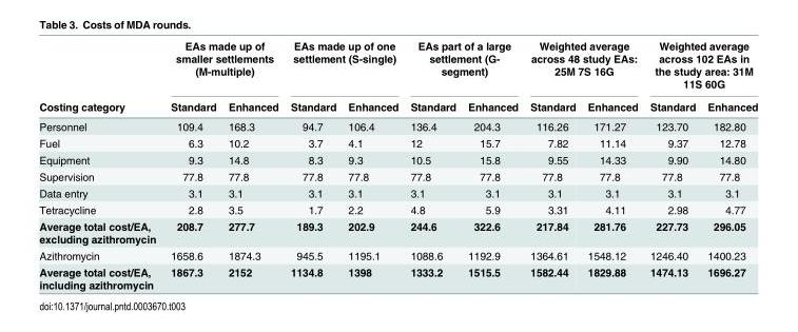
<table><thead><tr><td rowspan="2">Costing category</td><td colspan="2">EAs made up of smaller settlements (M-multiple)</td><td colspan="2">EAs made up of one settlement (S-single)</td><td colspan="2">EAs part of a large settlement (G- segment)</td><td colspan="2">Weighted average across 48 study EAs: 25M 7S 16G</td><td colspan="2">Weighted average across 102 EAs in the study area: 31M 11S 60G</td></tr><tr><td>Standard</td><td>Enhanced</td><td>Standard</td><td>Enhanced</td><td>Standard</td><td>Enhanced</td><td>Standard</td><td>Enhanced</td><td>Standard</td><td>Enhanced</td></tr></thead><tbody><tr><td>Personnel</td><td>109.4</td><td>168.3</td><td>94.7</td><td>106.4</td><td>136.4</td><td>204.3</td><td>116.26</td><td>171.27</td><td>123.70</td><td>182.80</td></tr><tr><td>Fuel</td><td>6.3</td><td>10.2</td><td>3.7</td><td>4.1</td><td>12</td><td>15.7</td><td>7.82</td><td>11.14</td><td>9.37</td><td>12.78</td></tr><tr><td>Equipment</td><td>9.3</td><td>14.8</td><td>8.3</td><td>9.3</td><td>10.5</td><td>15.8</td><td>9.55</td><td>14.33</td><td>9.90</td><td>14.80</td></tr><tr><td>Supervision</td><td>77.8</td><td>77.8</td><td>77.8</td><td>77.8</td><td>77.8</td><td>77.8</td><td>77.8</td><td>77.8</td><td>77.8</td><td>77.8</td></tr><tr><td>Data entry</td><td>3.1</td><td>3.1</td><td>3.1</td><td>3.1</td><td>3.1</td><td>3.1</td><td>3.1</td><td>3.1</td><td>3.1</td><td>3.1</td></tr><tr><td>Tetracycline</td><td>2.8</td><td>3.5</td><td>1.7</td><td>2.2</td><td>4.8</td><td>5.9</td><td>3.31</td><td>4.11</td><td>2.98</td><td>4.77</td></tr><tr><td>Average total cost/EA, excluding azithromycin</td><td>208.7</td><td>277.7</td><td>189.3</td><td>202.9</td><td>244.6</td><td>322.6</td><td>217.84</td><td>281.76</td><td>227.73</td><td>296.05</td></tr><tr><td>Azithromycin</td><td>1658.6</td><td>1874.3</td><td>945.5</td><td>1195.1</td><td>1088.6</td><td>1192.9</td><td>1364.61</td><td>1548.12</td><td>1246.40</td><td>1400.23</td></tr><tr><td>Average total cost/EA, including azithromycin</td><td>1867.3</td><td>2152</td><td>1134.8</td><td>1398</td><td>1333.2</td><td>1515.5</td><td>1582.44</td><td>1829.88</td><td>1474.13</td><td>1696.27</td></tr></tbody></table>